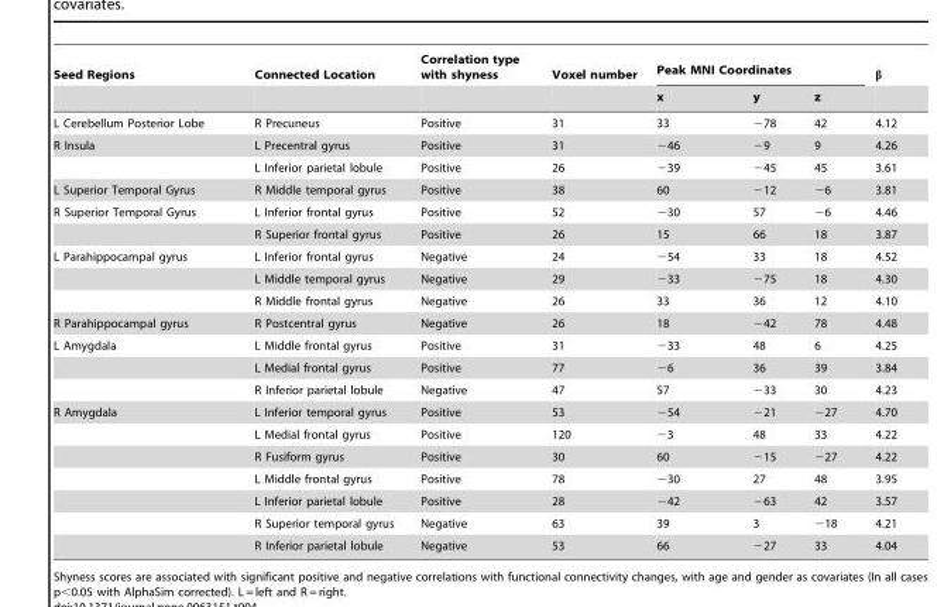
<table><thead><tr><td rowspan="2">Seed Regions</td><td rowspan="2">Connected Location</td><td rowspan="2">Correlation type with shyness</td><td rowspan="2">Voxel number</td><td colspan="3">Peak MNI Coordinates</td><td rowspan="2">β</td></tr><tr><td>x</td><td>y</td><td>z</td></tr></thead><tbody><tr><td>L Cerebellum Posterior Lobe</td><td>R Precuneus</td><td>Positive</td><td>31</td><td>33</td><td>−78</td><td>42</td><td>4.12</td></tr><tr><td rowspan="2">R Insula</td><td>L Precentral gyrus</td><td>Positive</td><td>31</td><td>−46</td><td>−9</td><td>9</td><td>4.26</td></tr><tr><td>L Inferior parietal lobule</td><td>Positive</td><td>26</td><td>−39</td><td>−45</td><td>45</td><td>3.61</td></tr><tr><td>L Superior Temporal Gyrus</td><td>R Middle temporal gyrus</td><td>Positive</td><td>38</td><td>60</td><td>−12</td><td>−6</td><td>3.81</td></tr><tr><td rowspan="2">R Superior Temporal Gyrus</td><td>L Inferior frontal gyrus</td><td>Positive</td><td>52</td><td>−30</td><td>57</td><td>−6</td><td>4.46</td></tr><tr><td>R Superior frontal gyrus</td><td>Positive</td><td>26</td><td>15</td><td>66</td><td>18</td><td>3.87</td></tr><tr><td rowspan="3">L Parahippocampal gyrus</td><td>L Inferior frontal gyrus</td><td>Negative</td><td>24</td><td>−54</td><td>33</td><td>18</td><td>4.52</td></tr><tr><td>L Middle temporal gyrus</td><td>Negative</td><td>29</td><td>−33</td><td>−75</td><td>18</td><td>4.30</td></tr><tr><td>R Middle frontal gyrus</td><td>Negative</td><td>26</td><td>33</td><td>36</td><td>12</td><td>4.10</td></tr><tr><td>R Parahippocampal gyrus</td><td>R Postcentral gyrus</td><td>Negative</td><td>26</td><td>18</td><td>−42</td><td>78</td><td>4.48</td></tr><tr><td rowspan="3">L Amygdala</td><td>L Middle frontal gyrus</td><td>Positive</td><td>31</td><td>−33</td><td>48</td><td>6</td><td>4.25</td></tr><tr><td>L Medial frontal gyrus</td><td>Positive</td><td>77</td><td>−6</td><td>36</td><td>39</td><td>3.84</td></tr><tr><td>R Inferior parietal lobule</td><td>Negative</td><td>47</td><td>57</td><td>−33</td><td>30</td><td>4.23</td></tr><tr><td rowspan="7">R Amygdala</td><td>L Inferior temporal gyrus</td><td>Positive</td><td>53</td><td>−54</td><td>−21</td><td>−27</td><td>4.70</td></tr><tr><td>L Medial frontal gyrus</td><td>Positive</td><td>120</td><td>−3</td><td>48</td><td>33</td><td>4.22</td></tr><tr><td>R Fusiform gyrus</td><td>Positive</td><td>30</td><td>60</td><td>−15</td><td>−27</td><td>4.22</td></tr><tr><td>L Middle frontal gyrus</td><td>Positive</td><td>78</td><td>−30</td><td>27</td><td>48</td><td>3.95</td></tr><tr><td>L Inferior parietal lobule</td><td>Positive</td><td>28</td><td>−42</td><td>−63</td><td>42</td><td>3.57</td></tr><tr><td>R Superior temporal gyrus</td><td>Negative</td><td>63</td><td>39</td><td>3</td><td>−18</td><td>4.21</td></tr><tr><td>R Inferior parietal lobule</td><td>Negative</td><td>53</td><td>66</td><td>−27</td><td>33</td><td>4.04</td></tr></tbody></table>